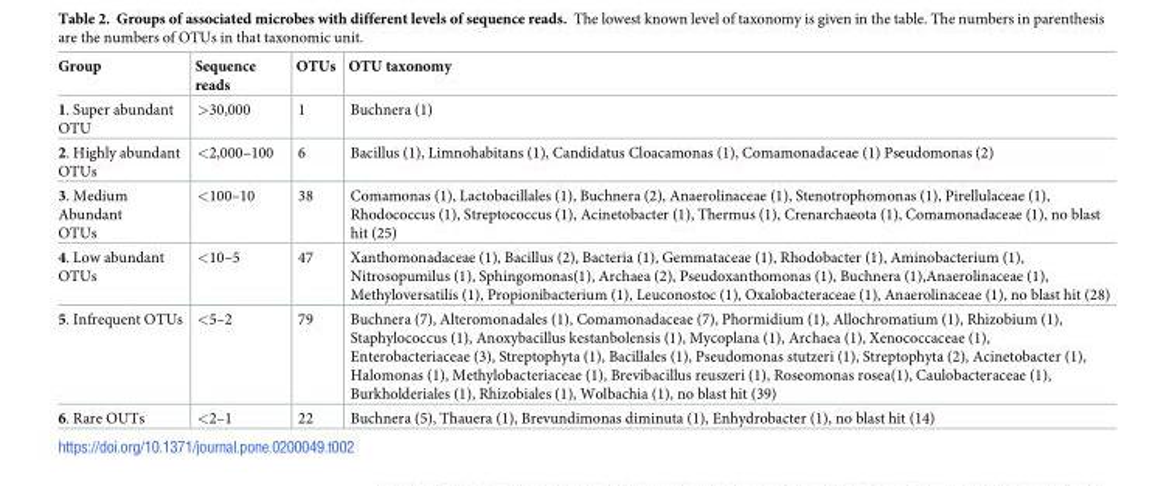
<table><thead><tr><td>Group</td><td>Sequence reads</td><td>OTUs</td><td>OTU taxonomy</td></tr></thead><tbody><tr><td>1. Super abundant OTU</td><td>&gt;30,000</td><td>1</td><td>Buchnera (1)</td></tr><tr><td>2. Highly abundant OTUs</td><td>&lt;2,000–100</td><td>6</td><td>Bacillus (1), Limnohabitans (1), Candidatus Cloacamonas (1), Comamonadaceae (1) Pseudomonas (2)</td></tr><tr><td>3. Medium Abundant OTUs</td><td>&lt;100–10</td><td>38</td><td>Comamonas (1), Lactobacillales (1), Buchnera (2), Anaerolinaceae (1), Stenotrophomonas (1), Pirellulaceae (1), Rhodococcus (1), Streptococcus (1), Acinetobacter (1), Thermus (1), Crenarchaeota (1), Comamonadaceae (1), no blast hit (25)</td></tr><tr><td>4. Low abundant OTUs</td><td>&lt;10–5</td><td>47</td><td>Xanthomonadaceae (1), Bacillus (2), Bacteria (1), Gemmataceae (1), Rhodobacter (1), Aminobacterium (1), Nitrosopumilus (1), Sphingomonas(1), Archaea (2), Pseudoxanthomonas (1), Buchnera (1),Anaerolinaceae (1), Methyloversatilis (1), Propionibacterium (1), Leuconostoc (1), Oxalobacteraceae (1), Anaerolinaceae (1), no blast hit (28)</td></tr><tr><td>5. Infrequent OTUs</td><td>&lt;5–2</td><td>79</td><td>Buchnera (7), Alteromonadales (1), Comamonadaceae (7), Phormidium (1), Allochromatium (1), Rhizobium (1), Staphylococcus (1), Anoxybacillus kestanbolensis (1), Mycoplana (1), Archaea (1), Xenococcaceae (1), Enterobacteriaceae (3), Streptophyta (1), Bacillales (1), Pseudomonas stutzeri (1), Streptophyta (2), Acinetobacter (1), Halomonas (1), Methylobacteriaceae (1), Brevibacillus reuszeri (1), Roseomonas rosea(1), Caulobacteraceae (1), Burkholderiales (1), Rhizobiales (1), Wolbachia (1), no blast hit (39)</td></tr><tr><td>6. Rare OUTs</td><td>&lt;2–1</td><td>22</td><td>Buchnera (5), Thauera (1), Brevundimonas diminuta (1), Enhydrobacter (1), no blast hit (14)</td></tr></tbody></table>